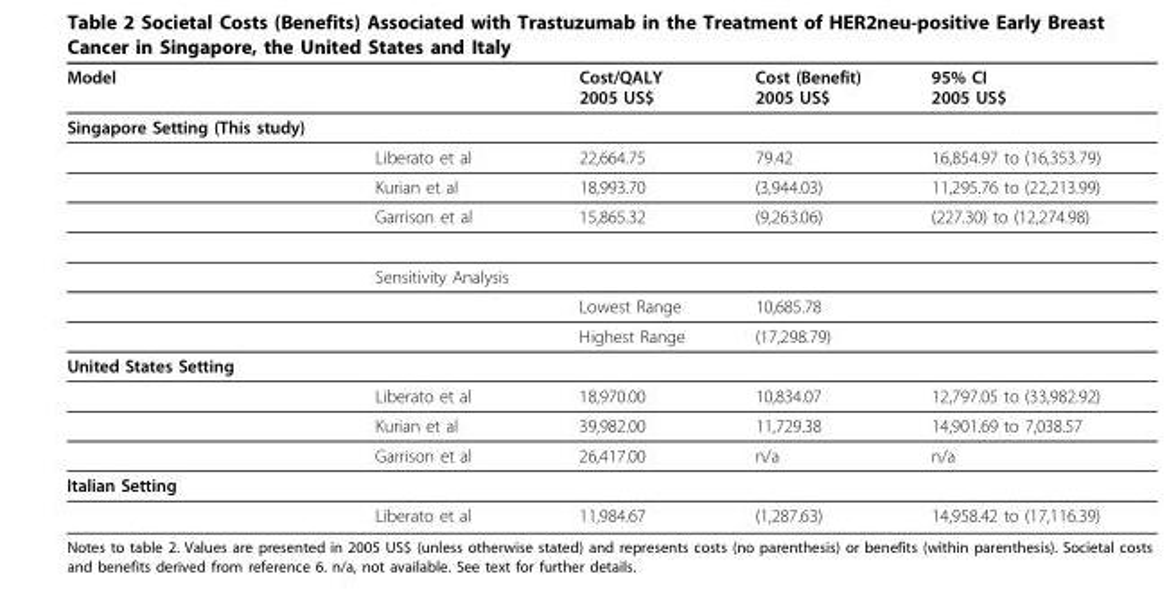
<table><thead><tr><td>Model</td><td></td><td>Cost/QALY 2005 US$</td><td>Cost (Benefit) 2005 US$</td><td>95% CI 2005 US$</td></tr></thead><tbody><tr><td colspan="5">Singapore Setting (This study)</td></tr><tr><td></td><td>Liberato et al</td><td>22,664.75</td><td>79.42</td><td>16,854.97 to (16,353.79)</td></tr><tr><td></td><td>Kurian et al</td><td>18,993.70</td><td>(3,944.03)</td><td>11,295.76 to (22,213.99)</td></tr><tr><td></td><td>Garrison et al</td><td>15,865.32</td><td>(9,263.06)</td><td>(227.30) to (12,274.98)</td></tr><tr><td></td><td>Sensitivity Analysis</td><td></td><td></td><td></td></tr><tr><td></td><td></td><td>Lowest Range</td><td>10,685.78</td><td></td></tr><tr><td></td><td></td><td>Highest Range</td><td>(17,298.79)</td><td></td></tr><tr><td colspan="5">United States Setting</td></tr><tr><td></td><td>Liberato et al</td><td>18,970.00</td><td>10,834.07</td><td>12,797.05 to (33,982.92)</td></tr><tr><td></td><td>Kurian et al</td><td>39,982.00</td><td>11,729.38</td><td>14,901.69 to 7,038.57</td></tr><tr><td></td><td>Garrison et al</td><td>26,417.00</td><td>n/a</td><td>n/a</td></tr><tr><td colspan="5">Italian Setting</td></tr><tr><td></td><td>Liberato et al</td><td>11,984.67</td><td>(1,287.63)</td><td>14,958.42 to (17,116.39)</td></tr></tbody></table>